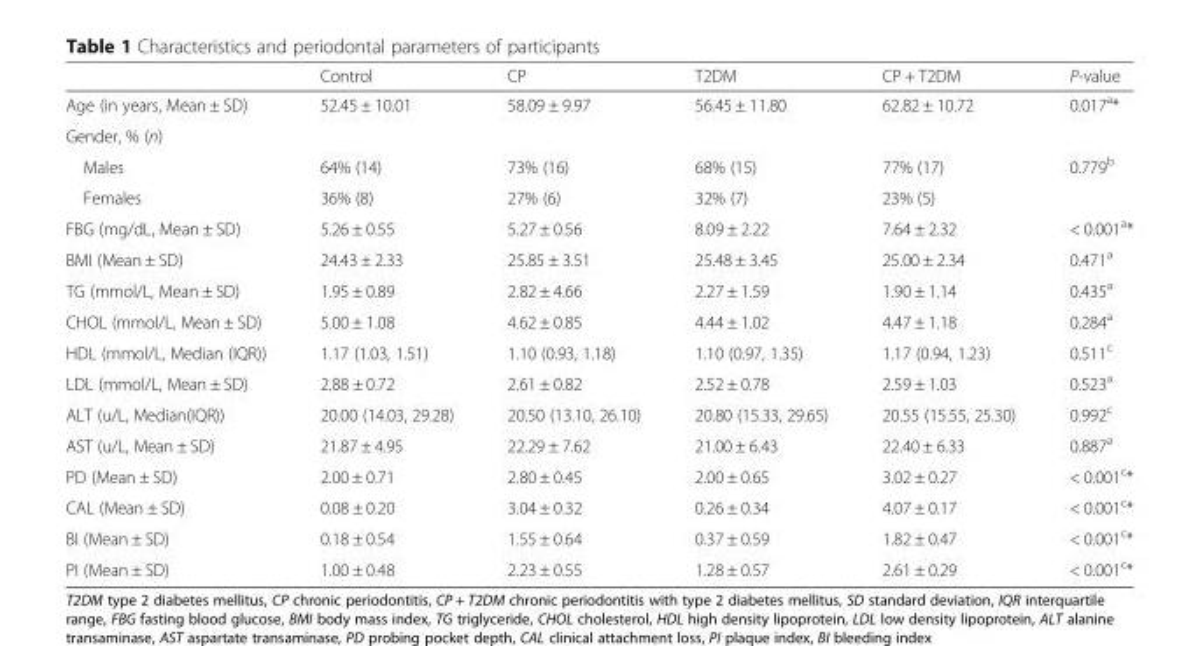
<table><thead><tr><td></td><td>Control</td><td>CP</td><td>T2DM</td><td>CP + T2DM</td><td>P-value</td></tr></thead><tbody><tr><td>Age (in years, Mean ± SD)</td><td>52.45 ± 10.01</td><td>58.09 ± 9.97</td><td>56.45 ± 11.80</td><td>62.82 ± 10.72</td><td>0.017<sup>a</sup>*</td></tr><tr><td colspan="6">Gender, % (n)</td></tr><tr><td>Males</td><td>64% (14)</td><td>73% (16)</td><td>68% (15)</td><td>77% (17)</td><td rowspan="2">0.779<sup>b</sup></td></tr><tr><td>Females</td><td>36% (8)</td><td>27% (6)</td><td>32% (7)</td><td>23% (5)</td></tr><tr><td>FBG (mg/dL, Mean ± SD)</td><td>5.26 ± 0.55</td><td>5.27 ± 0.56</td><td>8.09 ± 2.22</td><td>7.64 ± 2.32</td><td>&lt; 0.001<sup>a</sup>*</td></tr><tr><td>BMI (Mean ± SD)</td><td>24.43 ± 2.33</td><td>25.85 ± 3.51</td><td>25.48 ± 3.45</td><td>25.00 ± 2.34</td><td>0.471<sup>a</sup></td></tr><tr><td>TG (mmol/L, Mean ± SD)</td><td>1.95 ± 0.89</td><td>2.82 ± 4.66</td><td>2.27 ± 1.59</td><td>1.90 ± 1.14</td><td>0.435<sup>a</sup></td></tr><tr><td>CHOL (mmol/L, Mean ± SD)</td><td>5.00 ± 1.08</td><td>4.62 ± 0.85</td><td>4.44 ± 1.02</td><td>4.47 ± 1.18</td><td>0.284<sup>a</sup></td></tr><tr><td>HDL (mmol/L, Median (IQR))</td><td>1.17 (1.03, 1.51)</td><td>1.10 (0.93, 1.18)</td><td>1.10 (0.97, 1.35)</td><td>1.17 (0.94, 1.23)</td><td>0.511<sup>c</sup></td></tr><tr><td>LDL (mmol/L, Mean ± SD)</td><td>2.88 ± 0.72</td><td>2.61 ± 0.82</td><td>2.52 ± 0.78</td><td>2.59 ± 1.03</td><td>0.523<sup>a</sup></td></tr><tr><td>ALT (u/L, Median(IQR))</td><td>20.00 (14.03, 29.28)</td><td>20.50 (13.10, 26.10)</td><td>20.80 (15.33, 29.65)</td><td>20.55 (15.55, 25.30)</td><td>0.992<sup>c</sup></td></tr><tr><td>AST (u/L, Mean ± SD)</td><td>21.87 ± 4.95</td><td>22.29 ± 7.62</td><td>21.00 ± 6.43</td><td>22.40 ± 6.33</td><td>0.887<sup>a</sup></td></tr><tr><td>PD (Mean ± SD)</td><td>2.00 ± 0.71</td><td>2.80 ± 0.45</td><td>2.00 ± 0.65</td><td>3.02 ± 0.27</td><td>&lt; 0.001<sup>c</sup>*</td></tr><tr><td>CAL (Mean ± SD)</td><td>0.08 ± 0.20</td><td>3.04 ± 0.32</td><td>0.26 ± 0.34</td><td>4.07 ± 0.17</td><td>&lt; 0.001<sup>c</sup>*</td></tr><tr><td>BI (Mean ± SD)</td><td>0.18 ± 0.54</td><td>1.55 ± 0.64</td><td>0.37 ± 0.59</td><td>1.82 ± 0.47</td><td>&lt; 0.001<sup>c</sup>*</td></tr><tr><td>PI (Mean ± SD)</td><td>1.00 ± 0.48</td><td>2.23 ± 0.55</td><td>1.28 ± 0.57</td><td>2.61 ± 0.29</td><td>&lt; 0.001<sup>c</sup>*</td></tr></tbody></table>